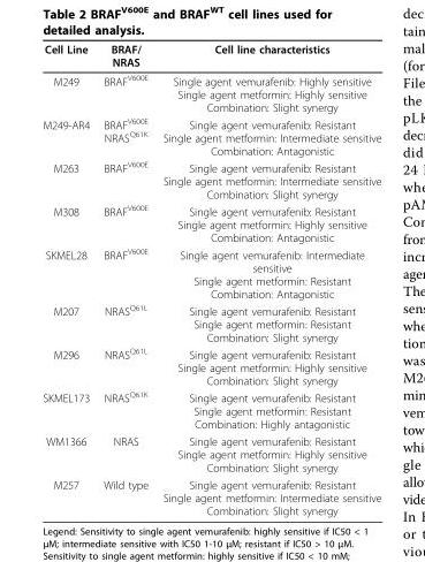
<table><thead><tr><td>Cell Line</td><td>BRAF/ NRAS</td><td>Cell line characteristics</td></tr></thead><tbody><tr><td>M249</td><td>BRAF<sup>V600E</sup></td><td>Single agent vemurafenib: Highly sensitive Single agent metformin: Highly sensitive Combination: Slight synergy</td></tr><tr><td>M249-AR4</td><td>BRAF<sup>V600E</sup> NRAS<sup>Q61K</sup></td><td>Single agent vemurafenib: Resistant Single agent metformin: Intermediate sensitive Combination: Antagonistic</td></tr><tr><td>M263</td><td>BRAF<sup>V600E</sup></td><td>Single agent vemurafenib: Resistant Single agent metformin: Intermediate sensitive Combination: Slight synergy</td></tr><tr><td>M308</td><td>BRAF<sup>V600E</sup></td><td>Single agent vemurafenib: Resistant Single agent metformin: Highly sensitive Combination: Antagonistic</td></tr><tr><td>SKMEL28</td><td>BRAF<sup>V600E</sup></td><td>Single agent vemurafenib: Intermediate sensitive Single agent metformin: Resistant Combination: Antagonistic</td></tr><tr><td>M207</td><td>NRAS<sup>Q61L</sup></td><td>Single agent vemurafenib: Resistant Single agent metformin: Resistant Combination: Slight synergy</td></tr><tr><td>M296</td><td>NRAS<sup>Q61L</sup></td><td>Single agent vemurafenib: Resistant Single agent metformin: Highly sensitive Combination: Slight synergy</td></tr><tr><td>SKMEL173</td><td>NRAS<sup>Q61K</sup></td><td>Single agent vemurafenib: Resistant Single agent metformin: Resistant Combination: Highly antagonistic</td></tr><tr><td>WM1366</td><td>NRAS</td><td>Single agent vemurafenib: Resistant Single agent metformin: Highly sensitive Combination: Slight synergy</td></tr><tr><td>M257</td><td>Wild type</td><td>Single agent vemurafenib: Resistant Single agent metformin: Intermediate sensitive Combination: Slight synergy</td></tr></tbody></table>